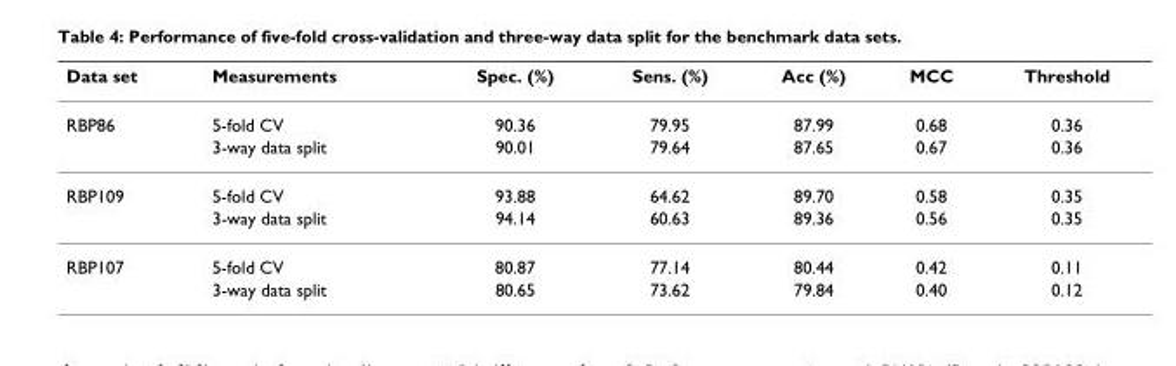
<table><thead><tr><td>Data set</td><td>Measurements</td><td>Spec. (%)</td><td>Sens. (%)</td><td>Acc (%)</td><td>MCC</td><td>Threshold</td></tr></thead><tbody><tr><td rowspan="2">RBP86</td><td>5-fold CV</td><td>90.36</td><td>79.95</td><td>87.99</td><td>0.68</td><td>0.36</td></tr><tr><td>3-way data split</td><td>90.01</td><td>79.64</td><td>87.65</td><td>0.67</td><td>0.36</td></tr><tr><td rowspan="2">RBP109</td><td>5-fold CV</td><td>93.88</td><td>64.62</td><td>89.70</td><td>0.58</td><td>0.35</td></tr><tr><td>3-way data split</td><td>94.14</td><td>60.63</td><td>89.36</td><td>0.56</td><td>0.35</td></tr><tr><td rowspan="2">RBP107</td><td>5-fold CV</td><td>80.87</td><td>77.14</td><td>80.44</td><td>0.42</td><td>0.11</td></tr><tr><td>3-way data split</td><td>80.65</td><td>73.62</td><td>79.84</td><td>0.40</td><td>0.12</td></tr></tbody></table>